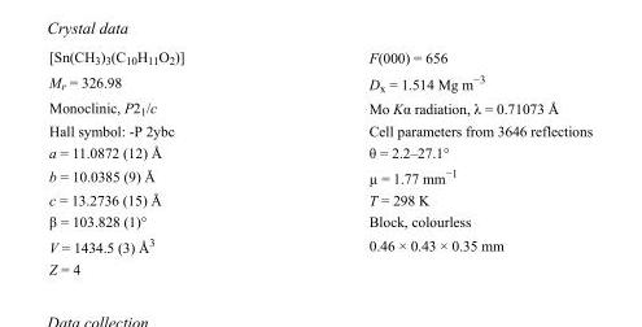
<table><tbody><tr><td>[Sn(CH<sub>3</sub>)<sub>3</sub>(C<sub>10</sub>H<sub>11</sub>O<sub>2</sub>)]</td><td>F(000) = 656</td></tr><tr><td>M<sub>r</sub> = 326.98</td><td>D<sub>x</sub> = 1.514 Mg m<sup>−3</sup></td></tr><tr><td>Monoclinic, P2<sub>1</sub>/c</td><td>Mo Kα radiation, λ = 0.71073 Å</td></tr><tr><td>Hall symbol: -P 2ybc</td><td>Cell parameters from 3646 reflections</td></tr><tr><td>a = 11.0872 (12) Å</td><td>θ = 2.2–27.1°</td></tr><tr><td>b = 10.0385 (9) Å</td><td>µ = 1.77 mm<sup>−1</sup></td></tr><tr><td>c = 13.2736 (15) Å</td><td>T = 298 K</td></tr><tr><td>β = 103.828 (1)°</td><td>Block, colourless</td></tr><tr><td>V = 1434.5 (3) Å<sup>3</sup></td><td>0.46 × 0.43 × 0.35 mm</td></tr><tr><td>Z = 4</td><td></td></tr></tbody></table>